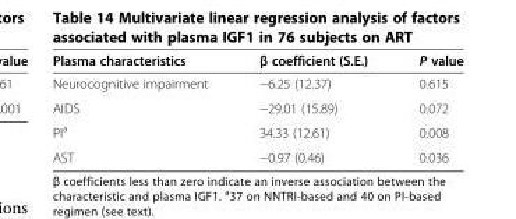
<table><thead><tr><td>Plasma characteristics</td><td>β coefficient (S.E.)</td><td>P value</td></tr></thead><tbody><tr><td>Neurocognitive impairment</td><td>−6.25 (12.37)</td><td>0.615</td></tr><tr><td>AIDS</td><td>−29.01 (15.89)</td><td>0.072</td></tr><tr><td>PI<sup>a</sup></td><td>34.33 (12.61)</td><td>0.008</td></tr><tr><td>AST</td><td>−0.97 (0.46)</td><td>0.036</td></tr></tbody></table>